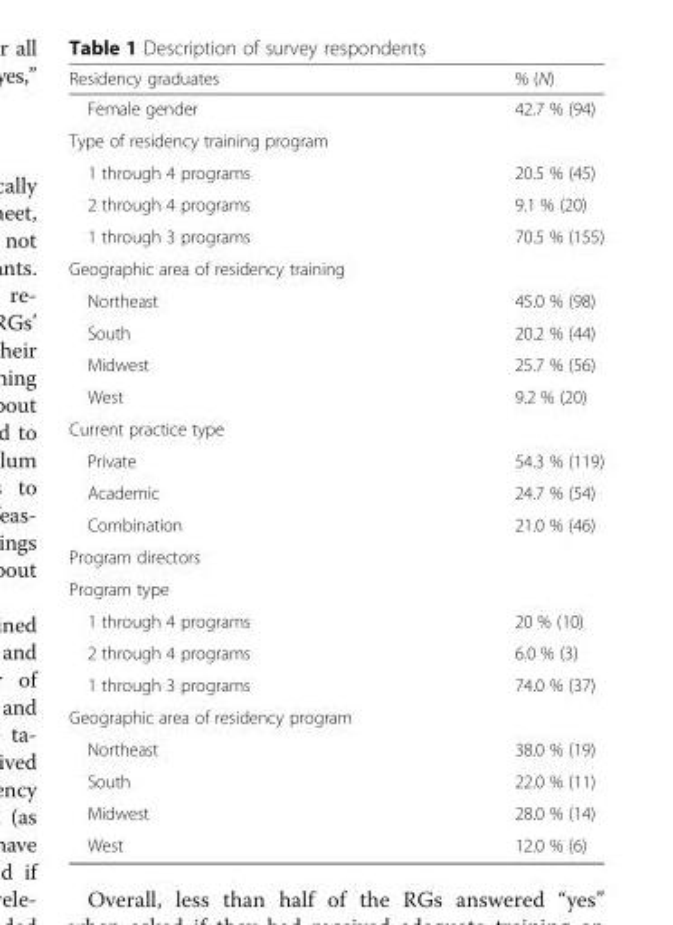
<table><thead><tr><td>Residency graduates</td><td>% (N)</td></tr></thead><tbody><tr><td>Female gender</td><td>42.7 % (94)</td></tr><tr><td colspan="2">Type of residency training program</td></tr><tr><td>1 through 4 programs</td><td>20.5 % (45)</td></tr><tr><td>2 through 4 programs</td><td>9.1 % (20)</td></tr><tr><td>1 through 3 programs</td><td>70.5 % (155)</td></tr><tr><td colspan="2">Geographic area of residency training</td></tr><tr><td>Northeast</td><td>45.0 % (98)</td></tr><tr><td>South</td><td>20.2 % (44)</td></tr><tr><td>Midwest</td><td>25.7 % (56)</td></tr><tr><td>West</td><td>9.2 % (20)</td></tr><tr><td colspan="2">Current practice type</td></tr><tr><td>Private</td><td>54.3 % (119)</td></tr><tr><td>Academic</td><td>24.7 % (54)</td></tr><tr><td>Combination</td><td>21.0 % (46)</td></tr><tr><td colspan="2">Program directors</td></tr><tr><td colspan="2">Program type</td></tr><tr><td>1 through 4 programs</td><td>20 % (10)</td></tr><tr><td>2 through 4 programs</td><td>6.0 % (3)</td></tr><tr><td>1 through 3 programs</td><td>74.0 % (37)</td></tr><tr><td colspan="2">Geographic area of residency program</td></tr><tr><td>Northeast</td><td>38.0 % (19)</td></tr><tr><td>South</td><td>22.0 % (11)</td></tr><tr><td>Midwest</td><td>28.0 % (14)</td></tr><tr><td>West</td><td>12.0 % (6)</td></tr></tbody></table>